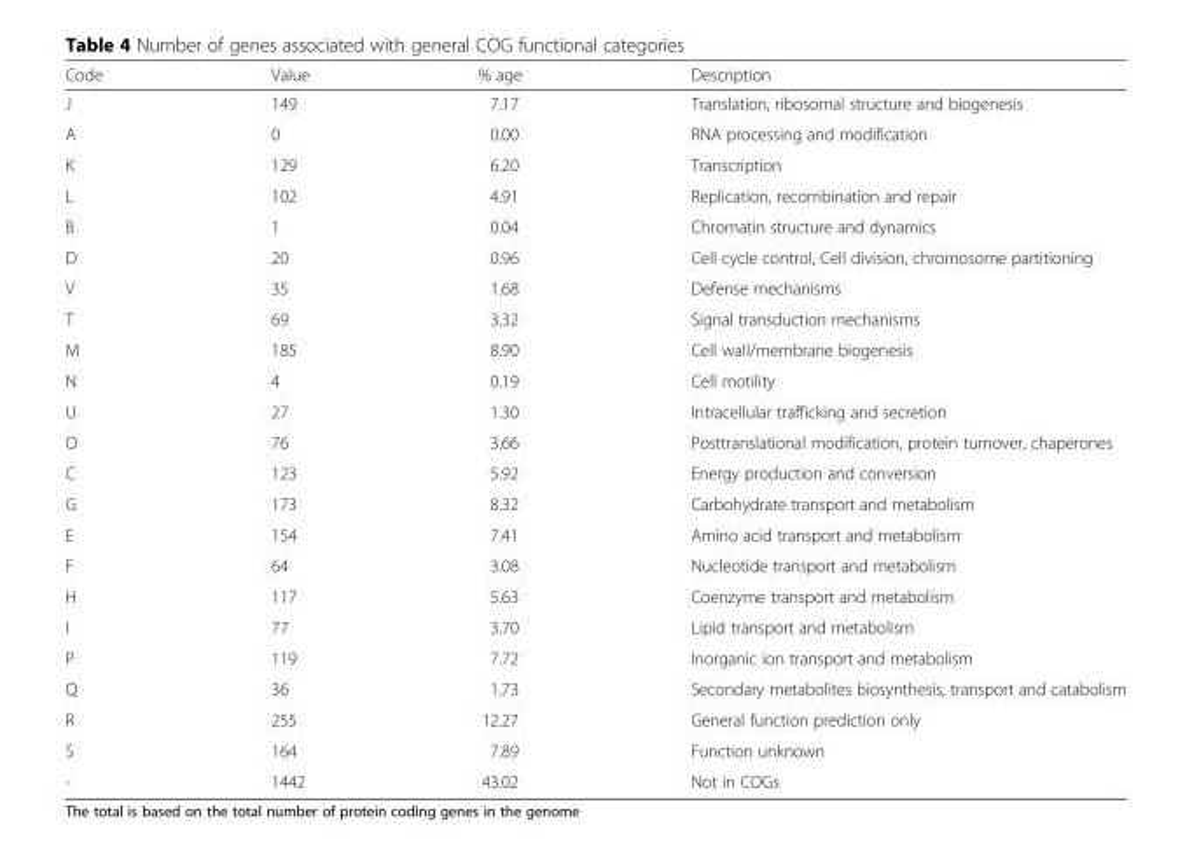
<table><thead><tr><td>Code</td><td>Value</td><td>% age</td><td>Description</td></tr></thead><tbody><tr><td>J</td><td>149</td><td>7.17</td><td>Translation, ribosomal structure and biogenesis</td></tr><tr><td>A</td><td>0</td><td>0.00</td><td>RNA processing and modification</td></tr><tr><td>K</td><td>129</td><td>6.20</td><td>Transcription</td></tr><tr><td>L</td><td>102</td><td>4.91</td><td>Replication, recombination and repair</td></tr><tr><td>B</td><td>1</td><td>0.04</td><td>Chromatin structure and dynamics</td></tr><tr><td>D</td><td>20</td><td>0.96</td><td>Cell cycle control, Cell division, chromosome partitioning</td></tr><tr><td>V</td><td>35</td><td>1.68</td><td>Defense mechanisms</td></tr><tr><td>T</td><td>69</td><td>3.32</td><td>Signal transduction mechanisms</td></tr><tr><td>M</td><td>185</td><td>8.90</td><td>Cell wall/membrane biogenesis</td></tr><tr><td>N</td><td>4</td><td>0.19</td><td>Cell motility</td></tr><tr><td>U</td><td>27</td><td>1.30</td><td>Intracellular trafficking and secretion</td></tr><tr><td>O</td><td>76</td><td>3.66</td><td>Posttranslational modification, protein turnover, chaperones</td></tr><tr><td>C</td><td>123</td><td>5.92</td><td>Energy production and conversion</td></tr><tr><td>G</td><td>173</td><td>8.32</td><td>Carbohydrate transport and metabolism</td></tr><tr><td>E</td><td>154</td><td>7.41</td><td>Amino acid transport and metabolism</td></tr><tr><td>F</td><td>64</td><td>3.08</td><td>Nucleotide transport and metabolism</td></tr><tr><td>H</td><td>117</td><td>5.63</td><td>Coenzyme transport and metabolism</td></tr><tr><td>I</td><td>77</td><td>3.70</td><td>Lipid transport and metabolism</td></tr><tr><td>P</td><td>119</td><td>7.72</td><td>Inorganic ion transport and metabolism</td></tr><tr><td>Q</td><td>36</td><td>1.73</td><td>Secondary metabolites biosynthesis, transport and catabolism</td></tr><tr><td>R</td><td>255</td><td>12.27</td><td>General function prediction only</td></tr><tr><td>S</td><td>164</td><td>7.89</td><td>Function unknown</td></tr><tr><td>-</td><td>1442</td><td>43.02</td><td>Not in COGs</td></tr></tbody></table>